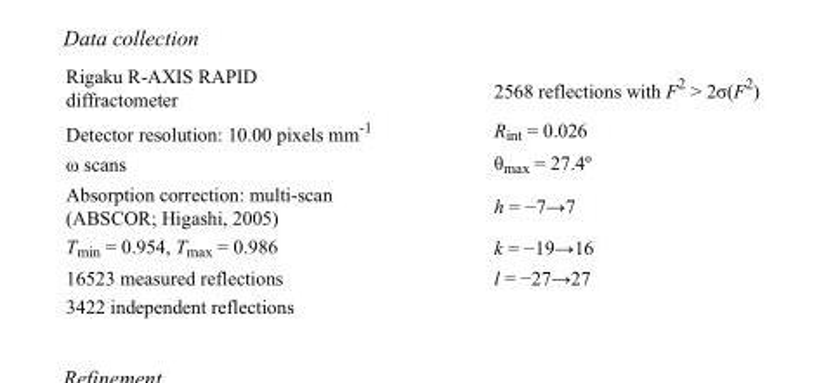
<table><tbody><tr><td>Rigaku R-AXIS RAPID diffractometer</td><td>2568 reflections with F<sup>2</sup> &gt; 2σ(F<sup>2</sup>)</td></tr><tr><td>Detector resolution: 10.00 pixels mm<sup>-1</sup></td><td>R<sub>int</sub> = 0.026</td></tr><tr><td>ω scans</td><td>θmax = 27.4º</td></tr><tr><td>Absorption correction: multi-scan (ABSCOR; Higashi, 2005)</td><td>h = −7→7</td></tr><tr><td>T<sub>min</sub> = 0.954, T<sub>max</sub> = 0.986</td><td>k = −19→16</td></tr><tr><td>16523 measured reflections</td><td>l = −27→27</td></tr><tr><td>3422 independent reflections</td><td></td></tr></tbody></table>